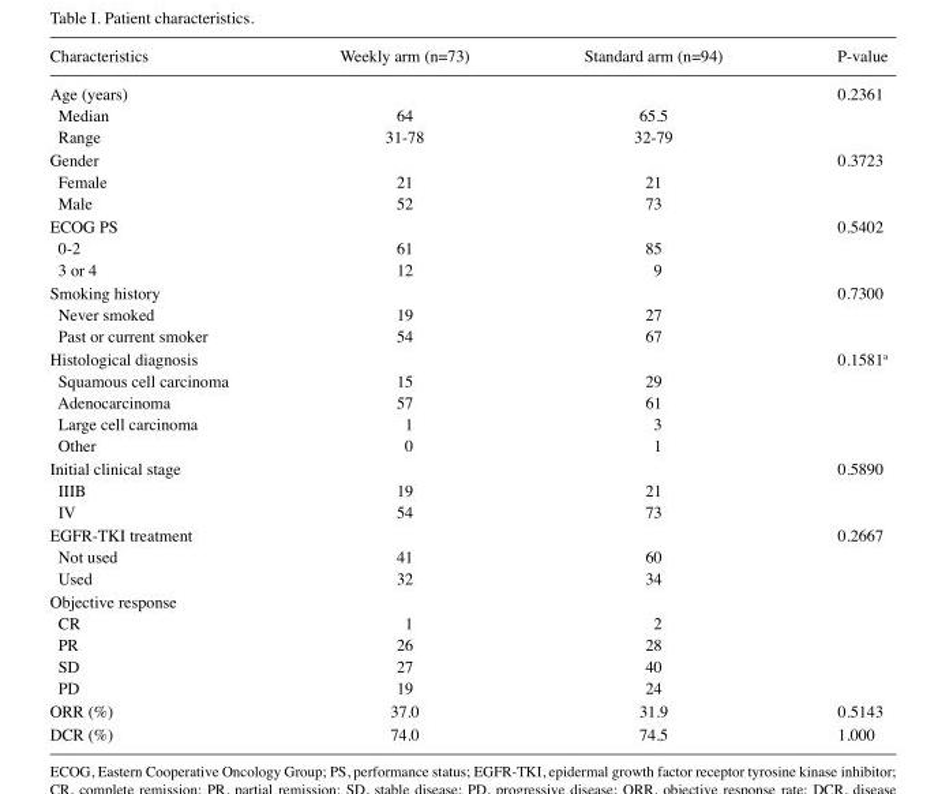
<table><thead><tr><td>Characteristics</td><td>Weekly arm (n=73)</td><td>Standard arm (n=94)</td><td>P-value</td></tr></thead><tbody><tr><td>Age (years)</td><td></td><td></td><td>0.2361</td></tr><tr><td>Median</td><td>64</td><td>65.5</td><td></td></tr><tr><td>Range</td><td>31-78</td><td>32-79</td><td></td></tr><tr><td>Gender</td><td></td><td></td><td>0.3723</td></tr><tr><td>Female</td><td>21</td><td>21</td><td></td></tr><tr><td>Male</td><td>52</td><td>73</td><td></td></tr><tr><td>ECOG PS</td><td></td><td></td><td>0.5402</td></tr><tr><td>0-2</td><td>61</td><td>85</td><td></td></tr><tr><td>3 or 4</td><td>12</td><td>9</td><td></td></tr><tr><td>Smoking history</td><td></td><td></td><td>0.7300</td></tr><tr><td>Never smoked</td><td>19</td><td>27</td><td></td></tr><tr><td>Past or current smoker</td><td>54</td><td>67</td><td></td></tr><tr><td>Histological diagnosis</td><td></td><td></td><td>0.1581<sup>a</sup></td></tr><tr><td>Squamous cell carcinoma</td><td>15</td><td>29</td><td></td></tr><tr><td>Adenocarcinoma</td><td>57</td><td>61</td><td></td></tr><tr><td>Large cell carcinoma</td><td>1</td><td>3</td><td></td></tr><tr><td>Other</td><td>0</td><td>1</td><td></td></tr><tr><td>Initial clinical stage</td><td></td><td></td><td>0.5890</td></tr><tr><td>IIIB</td><td>19</td><td>21</td><td></td></tr><tr><td>IV</td><td>54</td><td>73</td><td></td></tr><tr><td>EGFR-TKI treatment</td><td></td><td></td><td>0.2667</td></tr><tr><td>Not used</td><td>41</td><td>60</td><td></td></tr><tr><td>Used</td><td>32</td><td>34</td><td></td></tr><tr><td colspan="4">Objective response</td></tr><tr><td>CR</td><td>1</td><td>2</td><td></td></tr><tr><td>PR</td><td>26</td><td>28</td><td></td></tr><tr><td>SD</td><td>27</td><td>40</td><td></td></tr><tr><td>PD</td><td>19</td><td>24</td><td></td></tr><tr><td>ORR (%)</td><td>37.0</td><td>31.9</td><td>0.5143</td></tr><tr><td>DCR (%)</td><td>74.0</td><td>74.5</td><td>1.000</td></tr></tbody></table>